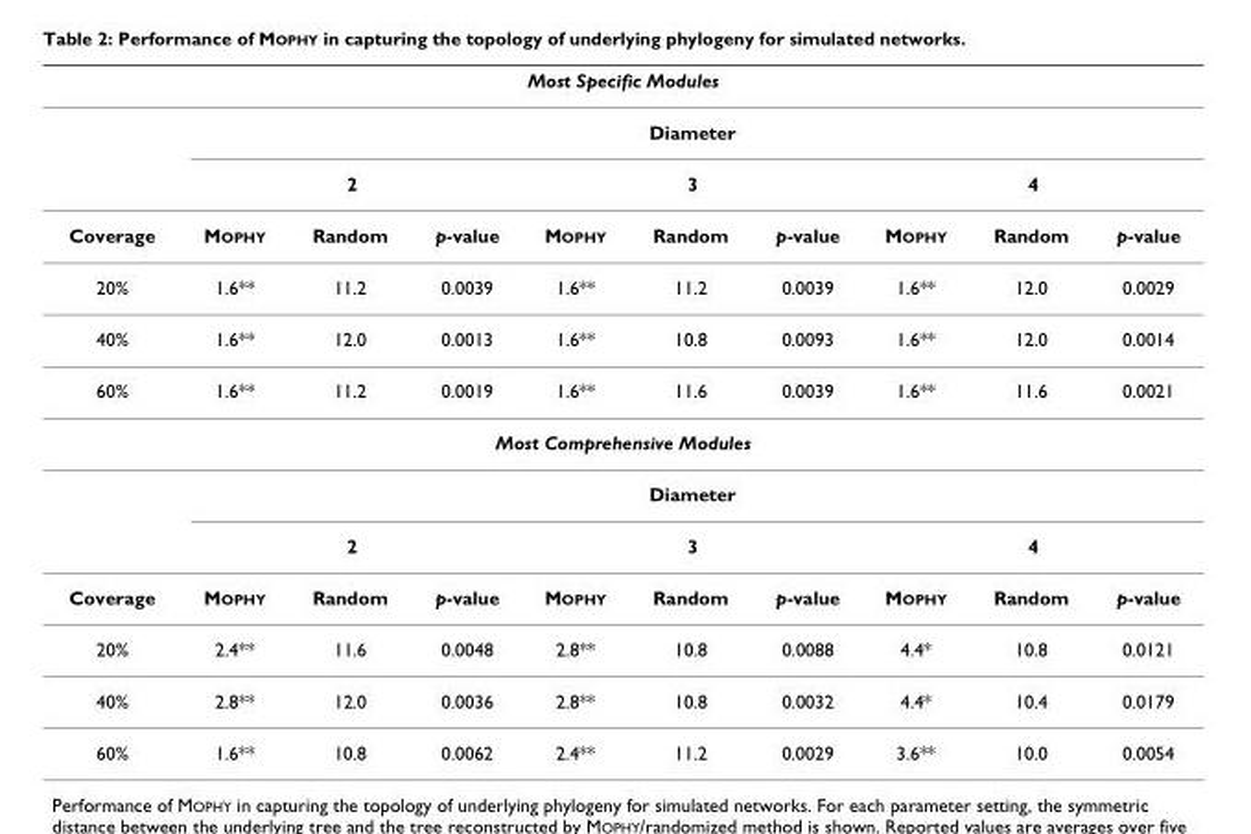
<table><thead><tr><td colspan="10">Most Specific Modules</td></tr><tr><td rowspan="3">Coverage</td><td colspan="9">Diameter</td></tr><tr><td colspan="3">2</td><td colspan="3">3</td><td colspan="3">4</td></tr><tr><td>MOPHY</td><td>Random</td><td>p-value</td><td>MOPHY</td><td>Random</td><td>p-value</td><td>MOPHY</td><td>Random</td><td>p-value</td></tr></thead><tbody><tr><td>20%</td><td>1.6**</td><td>11.2</td><td>0.0039</td><td>1.6**</td><td>11.2</td><td>0.0039</td><td>1.6**</td><td>12.0</td><td>0.0029</td></tr><tr><td>40%</td><td>1.6**</td><td>12.0</td><td>0.0013</td><td>1.6**</td><td>10.8</td><td>0.0093</td><td>1.6**</td><td>12.0</td><td>0.0014</td></tr><tr><td>60%</td><td>1.6**</td><td>11.2</td><td>0.0019</td><td>1.6**</td><td>11.6</td><td>0.0039</td><td>1.6**</td><td>11.6</td><td>0.0021</td></tr><tr><td colspan="10">Most Comprehensive Modules</td></tr><tr><td></td><td colspan="9">Diameter</td></tr><tr><td></td><td colspan="3">2</td><td colspan="3">3</td><td colspan="3">4</td></tr><tr><td>Coverage</td><td>MOPHY</td><td>Random</td><td>p-value</td><td>MOPHY</td><td>Random</td><td>p-value</td><td>MOPHY</td><td>Random</td><td>p-value</td></tr><tr><td>20%</td><td>2.4**</td><td>11.6</td><td>0.0048</td><td>2.8**</td><td>10.8</td><td>0.0088</td><td>4.4*</td><td>10.8</td><td>0.0121</td></tr><tr><td>40%</td><td>2.8**</td><td>12.0</td><td>0.0036</td><td>2.8**</td><td>10.8</td><td>0.0032</td><td>4.4*</td><td>10.4</td><td>0.0179</td></tr><tr><td>60%</td><td>1.6**</td><td>10.8</td><td>0.0062</td><td>2.4**</td><td>11.2</td><td>0.0029</td><td>3.6**</td><td>10.0</td><td>0.0054</td></tr></tbody></table>